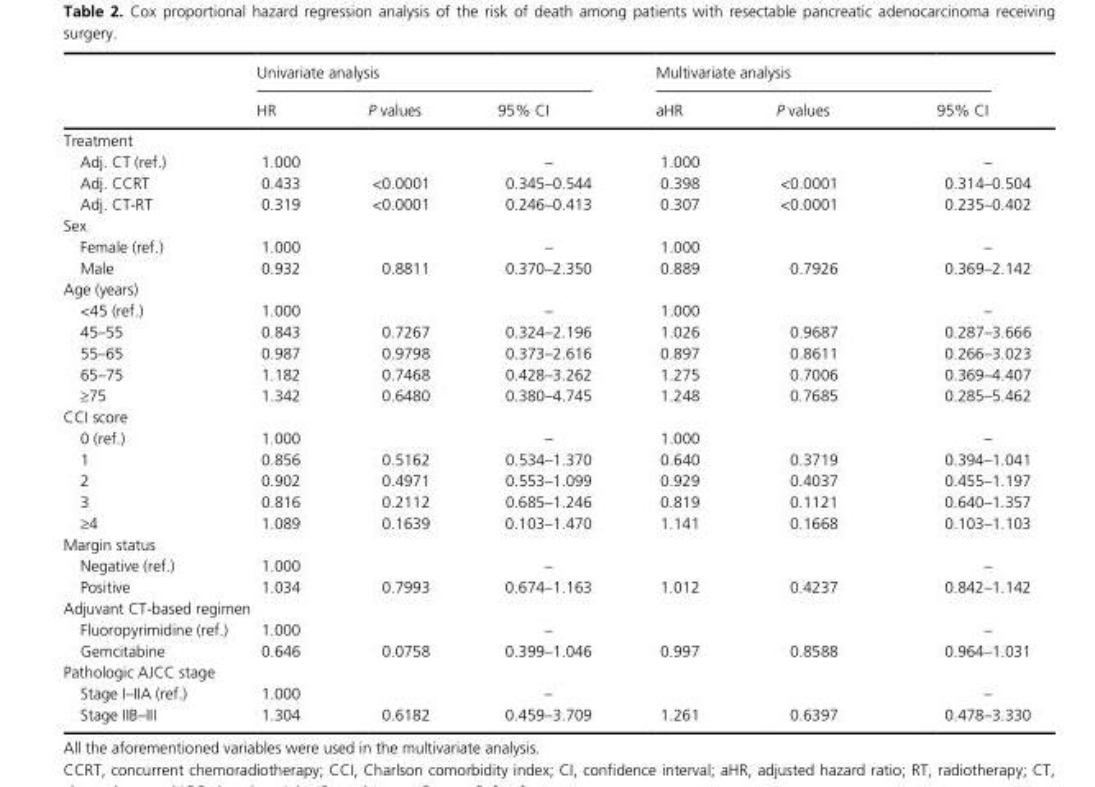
<table><thead><tr><td rowspan="2"></td><td colspan="3">Univariate analysis</td><td colspan="3">Multivariate analysis</td></tr><tr><td>HR</td><td>P values</td><td>95% CI</td><td>aHR</td><td>P values</td><td>95% CI</td></tr></thead><tbody><tr><td colspan="7">Treatment</td></tr><tr><td>Adj. CT (ref.)</td><td>1.000</td><td></td><td>–</td><td>1.000</td><td></td><td>–</td></tr><tr><td>Adj. CCRT</td><td>0.433</td><td>&lt;0.0001</td><td>0.345–0.544</td><td>0.398</td><td>&lt;0.0001</td><td>0.314–0.504</td></tr><tr><td>Adj. CT- RT</td><td>0.319</td><td>&lt;0.0001</td><td>0.246–0.413</td><td>0.307</td><td>&lt;0.0001</td><td>0.235–0.402</td></tr><tr><td colspan="7">Sex</td></tr><tr><td>Female (ref.)</td><td>1.000</td><td></td><td>–</td><td>1.000</td><td></td><td>–</td></tr><tr><td>Male</td><td>0.932</td><td>0.8811</td><td>0.370–2.350</td><td>0.889</td><td>0.7926</td><td>0.369–2.142</td></tr><tr><td colspan="7">Age (years)</td></tr><tr><td>&lt;45 (ref.)</td><td>1.000</td><td></td><td>–</td><td>1.000</td><td></td><td>–</td></tr><tr><td>45–55</td><td>0.843</td><td>0.7267</td><td>0.324–2.196</td><td>1.026</td><td>0.9687</td><td>0.287–3.666</td></tr><tr><td>55–65</td><td>0.987</td><td>0.9798</td><td>0.373–2.616</td><td>0.897</td><td>0.8611</td><td>0.266–3.023</td></tr><tr><td>65–75</td><td>1.182</td><td>0.7468</td><td>0.428–3.262</td><td>1.275</td><td>0.7006</td><td>0.369–4.407</td></tr><tr><td>≥75</td><td>1.342</td><td>0.6480</td><td>0.380–4.745</td><td>1.248</td><td>0.7685</td><td>0.285–5.462</td></tr><tr><td colspan="7">CCI score</td></tr><tr><td>0 (ref.)</td><td>1.000</td><td></td><td>–</td><td>1.000</td><td></td><td>–</td></tr><tr><td>1</td><td>0.856</td><td>0.5162</td><td>0.534–1.370</td><td>0.640</td><td>0.3719</td><td>0.394–1.041</td></tr><tr><td>2</td><td>0.902</td><td>0.4971</td><td>0.553–1.099</td><td>0.929</td><td>0.4037</td><td>0.455–1.197</td></tr><tr><td>3</td><td>0.816</td><td>0.2112</td><td>0.685–1.246</td><td>0.819</td><td>0.1121</td><td>0.640–1.357</td></tr><tr><td>≥4</td><td>1.089</td><td>0.1639</td><td>0.103–1.470</td><td>1.141</td><td>0.1668</td><td>0.103–1.103</td></tr><tr><td colspan="7">Margin status</td></tr><tr><td>Negative (ref.)</td><td>1.000</td><td></td><td>–</td><td></td><td></td><td>–</td></tr><tr><td>Positive</td><td>1.034</td><td>0.7993</td><td>0.674–1.163</td><td>1.012</td><td>0.4237</td><td>0.842–1.142</td></tr><tr><td colspan="7">Adjuvant CT- based regimen</td></tr><tr><td>Fluoropyrimidine (ref.)</td><td>1.000</td><td></td><td>–</td><td></td><td></td><td>–</td></tr><tr><td>Gemcitabine</td><td>0.646</td><td>0.0758</td><td>0.399–1.046</td><td>0.997</td><td>0.8588</td><td>0.964–1.031</td></tr><tr><td colspan="7">Pathologic AJCC stage</td></tr><tr><td>Stage I–IIA (ref.)</td><td>1.000</td><td></td><td>–</td><td></td><td></td><td>–</td></tr><tr><td>Stage IIB–III</td><td>1.304</td><td>0.6182</td><td>0.459–3.709</td><td>1.261</td><td>0.6397</td><td>0.478–3.330</td></tr></tbody></table>